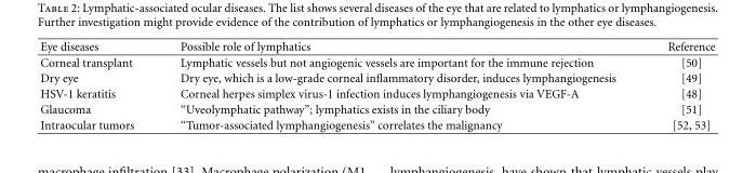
<table><thead><tr><td>Eye diseases</td><td>Possible role of lymphatics</td><td>Reference</td></tr></thead><tbody><tr><td>Corneal transplant</td><td>Lymphatic vessels but not angiogenic vessels are important for the immune rejection</td><td>[50]</td></tr><tr><td>Dry eye</td><td>Dry eye, which is a low-grade corneal inflammatory disorder, induces lymphangiogenesis</td><td>[49]</td></tr><tr><td>HSV-1 keratitis</td><td>Corneal herpes simplex virus-1 infection induces lymphangiogenesis via VEGF-A</td><td>[48]</td></tr><tr><td>Glaucoma</td><td>“Uveolymphatic pathway”; lymphatics exists in the ciliary body</td><td>[51]</td></tr><tr><td>Intraocular tumors</td><td>“Tumor-associated lymphangiogenesis” correlates the malignancy</td><td>[52, 53]</td></tr></tbody></table>